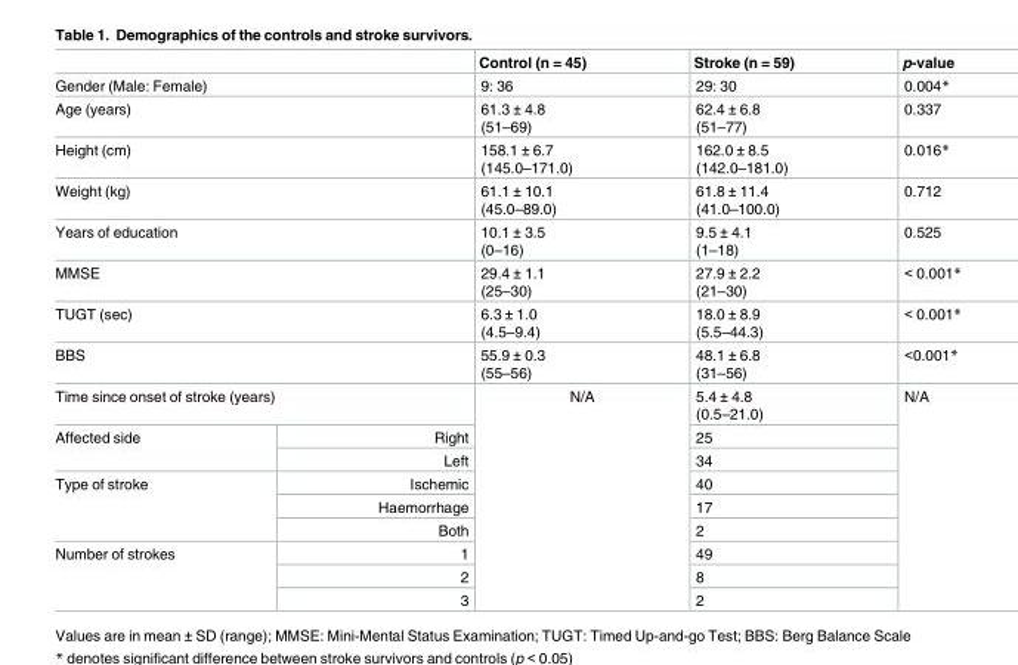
<table><thead><tr><td></td><td></td><td>Control (n = 45)</td><td>Stroke (n = 59)</td><td>p-value</td></tr></thead><tbody><tr><td colspan="2">Gender (Male: Female)</td><td>9: 36</td><td>29: 30</td><td>0.004*</td></tr><tr><td colspan="2">Age (years)</td><td>61.3 ± 4.8 (51–69)</td><td>62.4 ± 6.8 (51–77)</td><td>0.337</td></tr><tr><td colspan="2">Height (cm)</td><td>158.1 ± 6.7 (145.0–171.0)</td><td>162.0 ± 8.5 (142.0–181.0)</td><td>0.016*</td></tr><tr><td colspan="2">Weight (kg)</td><td>61.1 ± 10.1 (45.0–89.0)</td><td>61.8 ± 11.4 (41.0–100.0)</td><td>0.712</td></tr><tr><td colspan="2">Years of education</td><td>10.1 ± 3.5 (0–16)</td><td>9.5 ± 4.1 (1–18)</td><td>0.525</td></tr><tr><td colspan="2">MMSE</td><td>29.4 ± 1.1 (25–30)</td><td>27.9 ± 2.2 (21–30)</td><td>&lt; 0.001*</td></tr><tr><td colspan="2">TUGT (sec)</td><td>6.3 ± 1.0 (4.5–9.4)</td><td>18.0 ± 8.9 (5.5–44.3)</td><td>&lt; 0.001*</td></tr><tr><td colspan="2">BBS</td><td>55.9 ± 0.3 (55–56)</td><td>48.1 ± 6.8 (31–56)</td><td>&lt;0.001*</td></tr><tr><td colspan="2">Time since onset of stroke (years)</td><td rowspan="9">N/A</td><td>5.4 ± 4.8 (0.5–21.0)</td><td rowspan="9">N/A</td></tr><tr><td rowspan="2">Affected side</td><td>Right</td><td>25</td></tr><tr><td>Left</td><td>34</td></tr><tr><td rowspan="3">Type of stroke</td><td>Ischemic</td><td>40</td></tr><tr><td>Haemorrhage</td><td>17</td></tr><tr><td>Both</td><td>2</td></tr><tr><td rowspan="3">Number of strokes</td><td>1</td><td>49</td></tr><tr><td>2</td><td>8</td></tr><tr><td>3</td><td>2</td></tr></tbody></table>